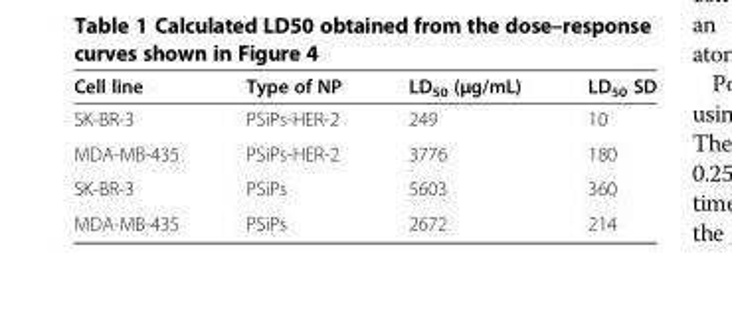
<table><thead><tr><td>Cell line</td><td>Type of NP</td><td>LD<sub>50</sub> (μg/mL)</td><td>LD<sub>50</sub> SD</td></tr></thead><tbody><tr><td>SK-BR-3</td><td>PSiPs-HER-2</td><td>249</td><td>10</td></tr><tr><td>MDA-MB-435</td><td>PSiPs-HER-2</td><td>3776</td><td>180</td></tr><tr><td>SK-BR-3</td><td>PSiPs</td><td>5603</td><td>360</td></tr><tr><td>MDA-MB-435</td><td>PSiPs</td><td>2672</td><td>214</td></tr></tbody></table>